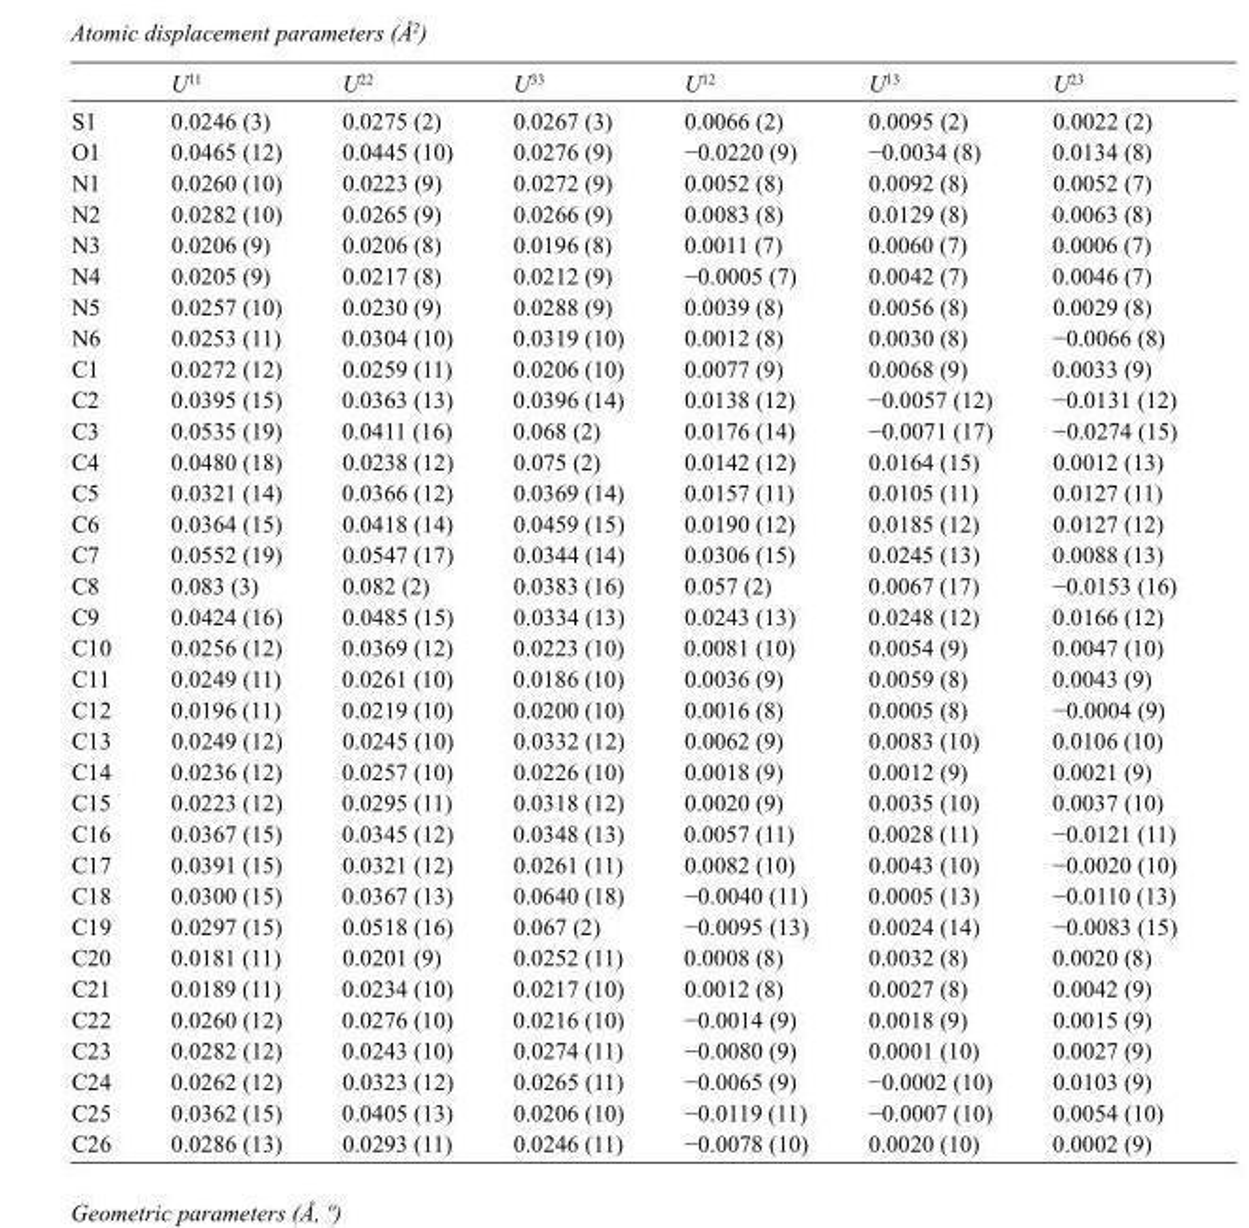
<table><thead><tr><td></td><td>U<sup>11</sup></td><td>U<sup>22</sup></td><td>U<sup>33</sup></td><td>U<sup>12</sup></td><td>U<sup>13</sup></td><td>U<sup>23</sup></td></tr></thead><tbody><tr><td>S1</td><td>0.0246 (3)</td><td>0.0275 (2)</td><td>0.0267 (3)</td><td>0.0066 (2)</td><td>0.0095 (2)</td><td>0.0022 (2)</td></tr><tr><td>O1</td><td>0.0465 (12)</td><td>0.0445 (10)</td><td>0.0276 (9)</td><td>−0.0220 (9)</td><td>−0.0034 (8)</td><td>0.0134 (8)</td></tr><tr><td>N1</td><td>0.0260 (10)</td><td>0.0223 (9)</td><td>0.0272 (9)</td><td>0.0052 (8)</td><td>0.0092 (8)</td><td>0.0052 (7)</td></tr><tr><td>N2</td><td>0.0282 (10)</td><td>0.0265 (9)</td><td>0.0266 (9)</td><td>0.0083 (8)</td><td>0.0129 (8)</td><td>0.0063 (8)</td></tr><tr><td>N3</td><td>0.0206 (9)</td><td>0.0206 (8)</td><td>0.0196 (8)</td><td>0.0011 (7)</td><td>0.0060 (7)</td><td>0.0006 (7)</td></tr><tr><td>N4</td><td>0.0205 (9)</td><td>0.0217 (8)</td><td>0.0212 (9)</td><td>−0.0005 (7)</td><td>0.0042 (7)</td><td>0.0046 (7)</td></tr><tr><td>N5</td><td>0.0257 (10)</td><td>0.0230 (9)</td><td>0.0288 (9)</td><td>0.0039 (8)</td><td>0.0056 (8)</td><td>0.0029 (8)</td></tr><tr><td>N6</td><td>0.0253 (11)</td><td>0.0304 (10)</td><td>0.0319 (10)</td><td>0.0012 (8)</td><td>0.0030 (8)</td><td>−0.0066 (8)</td></tr><tr><td>C1</td><td>0.0272 (12)</td><td>0.0259 (11)</td><td>0.0206 (10)</td><td>0.0077 (9)</td><td>0.0068 (9)</td><td>0.0033 (9)</td></tr><tr><td>C2</td><td>0.0395 (15)</td><td>0.0363 (13)</td><td>0.0396 (14)</td><td>0.0138 (12)</td><td>−0.0057 (12)</td><td>−0.0131 (12)</td></tr><tr><td>C3</td><td>0.0535 (19)</td><td>0.0411 (16)</td><td>0.068 (2)</td><td>0.0176 (14)</td><td>−0.0071 (17)</td><td>−0.0274 (15)</td></tr><tr><td>C4</td><td>0.0480 (18)</td><td>0.0238 (12)</td><td>0.075 (2)</td><td>0.0142 (12)</td><td>0.0164 (15)</td><td>0.0012 (13)</td></tr><tr><td>C5</td><td>0.0321 (14)</td><td>0.0366 (12)</td><td>0.0369 (14)</td><td>0.0157 (11)</td><td>0.0105 (11)</td><td>0.0127 (11)</td></tr><tr><td>C6</td><td>0.0364 (15)</td><td>0.0418 (14)</td><td>0.0459 (15)</td><td>0.0190 (12)</td><td>0.0185 (12)</td><td>0.0127 (12)</td></tr><tr><td>C7</td><td>0.0552 (19)</td><td>0.0547 (17)</td><td>0.0344 (14)</td><td>0.0306 (15)</td><td>0.0245 (13)</td><td>0.0088 (13)</td></tr><tr><td>C8</td><td>0.083 (3)</td><td>0.082 (2)</td><td>0.0383 (16)</td><td>0.057 (2)</td><td>0.0067 (17)</td><td>−0.0153 (16)</td></tr><tr><td>C9</td><td>0.0424 (16)</td><td>0.0485 (15)</td><td>0.0334 (13)</td><td>0.0243 (13)</td><td>0.0248 (12)</td><td>0.0166 (12)</td></tr><tr><td>C10</td><td>0.0256 (12)</td><td>0.0369 (12)</td><td>0.0223 (10)</td><td>0.0081 (10)</td><td>0.0054 (9)</td><td>0.0047 (10)</td></tr><tr><td>C11</td><td>0.0249 (11)</td><td>0.0261 (10)</td><td>0.0186 (10)</td><td>0.0036 (9)</td><td>0.0059 (8)</td><td>0.0043 (9)</td></tr><tr><td>C12</td><td>0.0196 (11)</td><td>0.0219 (10)</td><td>0.0200 (10)</td><td>0.0016 (8)</td><td>0.0005 (8)</td><td>−0.0004 (9)</td></tr><tr><td>C13</td><td>0.0249 (12)</td><td>0.0245 (10)</td><td>0.0332 (12)</td><td>0.0062 (9)</td><td>0.0083 (10)</td><td>0.0106 (10)</td></tr><tr><td>C14</td><td>0.0236 (12)</td><td>0.0257 (10)</td><td>0.0226 (10)</td><td>0.0018 (9)</td><td>0.0012 (9)</td><td>0.0021 (9)</td></tr><tr><td>C15</td><td>0.0223 (12)</td><td>0.0295 (11)</td><td>0.0318 (12)</td><td>0.0020 (9)</td><td>0.0035 (10)</td><td>0.0037 (10)</td></tr><tr><td>C16</td><td>0.0367 (15)</td><td>0.0345 (12)</td><td>0.0348 (13)</td><td>0.0057 (11)</td><td>0.0028 (11)</td><td>−0.0121 (11)</td></tr><tr><td>C17</td><td>0.0391 (15)</td><td>0.0321 (12)</td><td>0.0261 (11)</td><td>0.0082 (10)</td><td>0.0043 (10)</td><td>−0.0020 (10)</td></tr><tr><td>C18</td><td>0.0300 (15)</td><td>0.0367 (13)</td><td>0.0640 (18)</td><td>−0.0040 (11)</td><td>0.0005 (13)</td><td>−0.0110 (13)</td></tr><tr><td>C19</td><td>0.0297 (15)</td><td>0.0518 (16)</td><td>0.067 (2)</td><td>−0.0095 (13)</td><td>0.0024 (14)</td><td>−0.0083 (15)</td></tr><tr><td>C20</td><td>0.0181 (11)</td><td>0.0201 (9)</td><td>0.0252 (11)</td><td>0.0008 (8)</td><td>0.0032 (8)</td><td>0.0020 (8)</td></tr><tr><td>C21</td><td>0.0189 (11)</td><td>0.0234 (10)</td><td>0.0217 (10)</td><td>0.0012 (8)</td><td>0.0027 (8)</td><td>0.0042 (9)</td></tr><tr><td>C22</td><td>0.0260 (12)</td><td>0.0276 (10)</td><td>0.0216 (10)</td><td>−0.0014 (9)</td><td>0.0018 (9)</td><td>0.0015 (9)</td></tr><tr><td>C23</td><td>0.0282 (12)</td><td>0.0243 (10)</td><td>0.0274 (11)</td><td>−0.0080 (9)</td><td>0.0001 (10)</td><td>0.0027 (9)</td></tr><tr><td>C24</td><td>0.0262 (12)</td><td>0.0323 (12)</td><td>0.0265 (11)</td><td>−0.0065 (9)</td><td>−0.0002 (10)</td><td>0.0103 (9)</td></tr><tr><td>C25</td><td>0.0362 (15)</td><td>0.0405 (13)</td><td>0.0206 (10)</td><td>−0.0119 (11)</td><td>−0.0007 (10)</td><td>0.0054 (10)</td></tr><tr><td>C26</td><td>0.0286 (13)</td><td>0.0293 (11)</td><td>0.0246 (11)</td><td>−0.0078 (10)</td><td>0.0020 (10)</td><td>0.0002 (9)</td></tr></tbody></table>